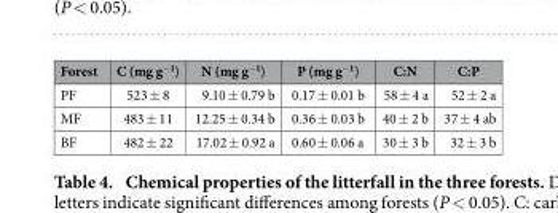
<table><thead><tr><td>Forest</td><td>C (mg g<sup>−1</sup>)</td><td>N (mg g<sup>−1</sup>)</td><td>P (mg g<sup>−1</sup>)</td><td>C:N</td><td>C:P</td></tr></thead><tbody><tr><td>PF</td><td>523 ± 8</td><td>9.10 ± 0.79 b</td><td>0.17 ± 0.01 b</td><td>58 ± 4 a</td><td>52 ± 2 a</td></tr><tr><td>MF</td><td>483 ± 11</td><td>12.25 ± 0.34 b</td><td>0.36 ± 0.03 b</td><td>40 ± 2 b</td><td>37 ± 4 ab</td></tr><tr><td>BF</td><td>482 ± 22</td><td>17.02 ± 0.92 a</td><td>0.60 ± 0.06 a</td><td>30 ± 3 b</td><td>32 ± 3 b</td></tr></tbody></table>